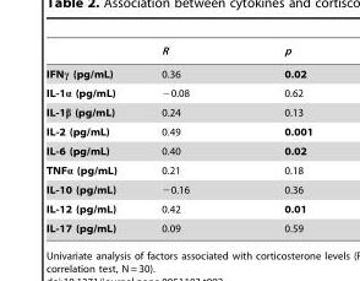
<table><thead><tr><td></td><td>R</td><td>p</td></tr></thead><tbody><tr><td>IFNγ (pg/mL)</td><td>0.36</td><td>0.02</td></tr><tr><td>IL-1α (pg/mL)</td><td>−0.08</td><td>0.62</td></tr><tr><td>IL-1β (pg/mL)</td><td>0.24</td><td>0.13</td></tr><tr><td>IL-2 (pg/mL)</td><td>0.49</td><td>0.001</td></tr><tr><td>IL-6 (pg/mL)</td><td>0.40</td><td>0.02</td></tr><tr><td>TNFα (pg/mL)</td><td>0.21</td><td>0.18</td></tr><tr><td>IL-10 (pg/mL)</td><td>−0.16</td><td>0.36</td></tr><tr><td>IL-12 (pg/mL)</td><td>0.42</td><td>0.01</td></tr><tr><td>IL-17 (pg/mL)</td><td>0.09</td><td>0.59</td></tr></tbody></table>